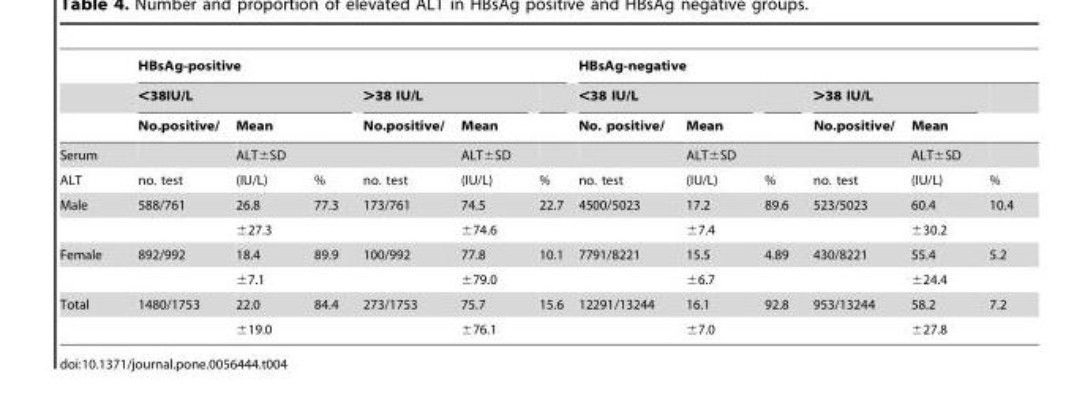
<table><thead><tr><td rowspan="3"></td><td colspan="6">HBsAg-positive</td><td colspan="6">HBsAg-negative</td></tr><tr><td colspan="3">&lt;38IU/L</td><td colspan="2">&gt;38 IU/L</td><td rowspan="2"></td><td colspan="2">&lt;38 IU/L</td><td rowspan="2"></td><td colspan="2">&gt;38 IU/L</td><td rowspan="2"></td></tr><tr><td>No.positive/</td><td>Mean</td><td></td><td>No.positive/</td><td>Mean</td><td>No. positive/</td><td>Mean</td><td>No.positive/</td><td>Mean</td></tr></thead><tbody><tr><td>Serum</td><td></td><td>ALT±SD</td><td></td><td></td><td>ALT±SD</td><td></td><td></td><td>ALT±SD</td><td></td><td></td><td>ALT±SD</td><td></td></tr><tr><td>ALT</td><td>no. test</td><td>(IU/L)</td><td>%</td><td>no. test</td><td>(IU/L)</td><td>%</td><td>no. test</td><td>(IU/L)</td><td>%</td><td>no. test</td><td>(IU/L)</td><td>%</td></tr><tr><td rowspan="2">Male</td><td>588/761</td><td>26.8</td><td>77.3</td><td>173/761</td><td>74.5</td><td>22.7</td><td>4500/5023</td><td>17.2</td><td>89.6</td><td>523/5023</td><td>60.4</td><td>10.4</td></tr><tr><td></td><td>±27.3</td><td></td><td></td><td>±74.6</td><td></td><td></td><td>±7.4</td><td></td><td></td><td>±30.2</td><td></td></tr><tr><td rowspan="2">Female</td><td>892/992</td><td>18.4</td><td>89.9</td><td>100/992</td><td>77.8</td><td>10.1</td><td>7791/8221</td><td>15.5</td><td>4.89</td><td>430/8221</td><td>55.4</td><td>5.2</td></tr><tr><td></td><td>±7.1</td><td></td><td></td><td>±79.0</td><td></td><td></td><td>±6.7</td><td></td><td></td><td>±24.4</td><td></td></tr><tr><td rowspan="2">Total</td><td>1480/1753</td><td>22.0</td><td>84.4</td><td>273/1753</td><td>75.7</td><td>15.6</td><td>12291/13244</td><td>16.1</td><td>92.8</td><td>953/13244</td><td>58.2</td><td>7.2</td></tr><tr><td></td><td>±19.0</td><td></td><td></td><td>±76.1</td><td></td><td></td><td>±7.0</td><td></td><td></td><td>±27.8</td><td></td></tr></tbody></table>